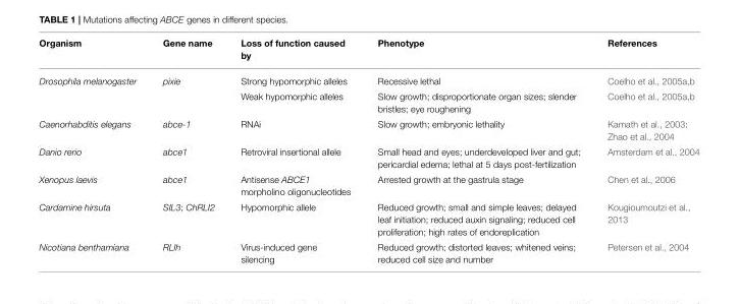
<table><thead><tr><td>Organism</td><td>Gene name</td><td>Loss of function caused by</td><td>Phenotype</td><td>References</td></tr></thead><tbody><tr><td rowspan="2">Drosophila melanogaster</td><td>pixie</td><td>Strong hypomorphic alleles</td><td>Recessive lethal</td><td>Coelho et al., 2005a,b</td></tr><tr><td></td><td>Weak hypomorphic alleles</td><td>Slow growth; disproportionate organ sizes; slender bristles; eye roughening</td><td>Coelho et al., 2005a,b</td></tr><tr><td>Caenorhabditis elegans</td><td>abce-1</td><td>RNAi</td><td>Slow growth; embryonic lethality</td><td>Kamath et al., 2003; Zhao et al., 2004</td></tr><tr><td>Danio rerio</td><td>abce1</td><td>Retroviral insertional allele</td><td>Small head and eyes; underdeveloped liver and gut; pericardial edema; lethal at 5 days post-fertilization</td><td>Amsterdam et al., 2004</td></tr><tr><td>Xenopus laevis</td><td>abce1</td><td>Antisense ABCE1 morpholino oligonucleotides</td><td>Arrested growth at the gastrula stage</td><td>Chen et al., 2006</td></tr><tr><td>Cardamine hirsuta</td><td>SIL3; ChRLI2</td><td>Hypomorphic allele</td><td>Reduced growth; small and simple leaves; delayed leaf initiation; reduced auxin signaling; reduced cell proliferation; high rates of endoreplication</td><td>Kougioumoutzi et al., 2013</td></tr><tr><td>Nicotiana benthamiana</td><td>RLIh</td><td>Virus-induced gene silencing</td><td>Reduced growth; distorted leaves; whitened veins; reduced cell size and number</td><td>Petersen et al., 2004</td></tr></tbody></table>